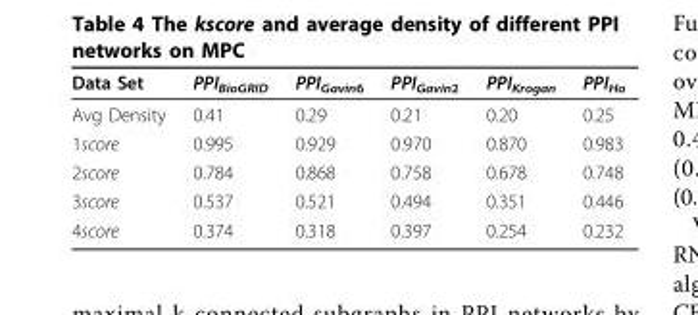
<table><thead><tr><td>Data Set</td><td>PPI<sub>BioGRID</sub></td><td>PPI<sub>Gavin6</sub></td><td>PPI<sub>Gavin2</sub></td><td>PPI<sub>Krogan</sub></td><td>PPI<sub>Ho</sub></td></tr></thead><tbody><tr><td>Avg Density</td><td>0.41</td><td>0.29</td><td>0.21</td><td>0.20</td><td>0.25</td></tr><tr><td>1score</td><td>0.995</td><td>0.929</td><td>0.970</td><td>0.870</td><td>0.983</td></tr><tr><td>2score</td><td>0.784</td><td>0.868</td><td>0.758</td><td>0.678</td><td>0.748</td></tr><tr><td>3score</td><td>0.537</td><td>0.521</td><td>0.494</td><td>0.351</td><td>0.446</td></tr><tr><td>4score</td><td>0.374</td><td>0.318</td><td>0.397</td><td>0.254</td><td>0.232</td></tr></tbody></table>